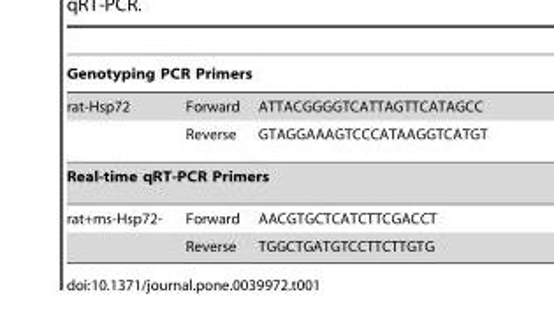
<table><thead><tr><td colspan="3">Genotyping PCR Primers</td></tr><tr><td>rat-Hsp72</td><td>Forward</td><td>ATTACGGGGTCATTAGTTCATAGCC</td></tr></thead><tbody><tr><td></td><td>Reverse</td><td>GTAGGAAAGTCCCATAAGGTCATGT</td></tr><tr><td colspan="3">Real-time qRT-PCR Primers</td></tr><tr><td rowspan="2">rat+ms-Hsp72-</td><td>Forward</td><td>AACGTGCTCATCTTCGACCT</td></tr><tr><td>Reverse</td><td>TGGCTGATGTCCTTCTTGTG</td></tr></tbody></table>